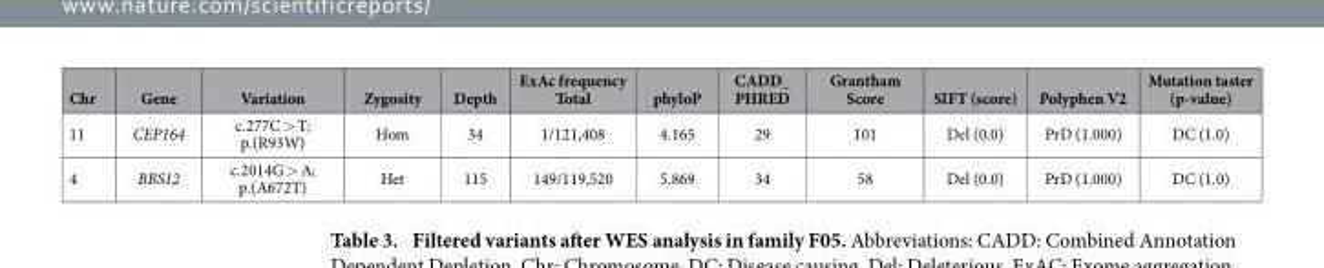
<table><thead><tr><td>Chr</td><td>Gene</td><td>Variation</td><td>Zygosity</td><td>Depth</td><td>ExAc frequency Total</td><td>phyloP</td><td>CADD_ PHRED</td><td>Grantham Score</td><td>SIFT (score)</td><td>Polyphen V2</td><td>Mutation taster (p-value)</td></tr></thead><tbody><tr><td>11</td><td>CEP164</td><td>c.277C &gt; T; p.(R93W)</td><td>Hom</td><td>34</td><td>1/121,408</td><td>4.165</td><td>29</td><td>101</td><td>Del (0.0)</td><td>PrD (1.000)</td><td>DC (1.0)</td></tr><tr><td>4</td><td>BBS12</td><td>c.2014G &gt; A; p.(A672T)</td><td>Het</td><td>115</td><td>149/119,520</td><td>5.869</td><td>34</td><td>58</td><td>Del (0.0)</td><td>PrD (1.000)</td><td>DC (1.0)</td></tr></tbody></table>